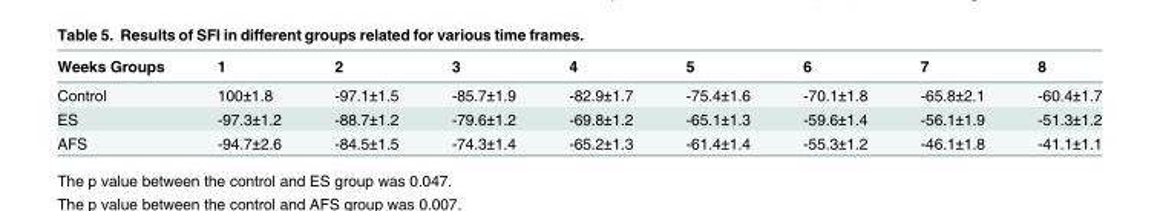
<table><thead><tr><td>Weeks Groups</td><td>1</td><td>2</td><td>3</td><td>4</td><td>5</td><td>6</td><td>7</td><td>8</td></tr></thead><tbody><tr><td>Control</td><td>100±1.8</td><td>-97.1±1.5</td><td>-85.7±1.9</td><td>-82.9±1.7</td><td>-75.4±1.6</td><td>-70.1±1.8</td><td>-65.8±2.1</td><td>-60.4±1.7</td></tr><tr><td>ES</td><td>-97.3±1.2</td><td>-88.7±1.2</td><td>-79.6±1.2</td><td>-69.8±1.2</td><td>-65.1±1.3</td><td>-59.6±1.4</td><td>-56.1±1.9</td><td>-51.3±1.2</td></tr><tr><td>AFS</td><td>-94.7±2.6</td><td>-84.5±1.5</td><td>-74.3±1.4</td><td>-65.2±1.3</td><td>-61.4±1.4</td><td>-55.3±1.2</td><td>-46.1±1.8</td><td>-41.1±1.1</td></tr></tbody></table>